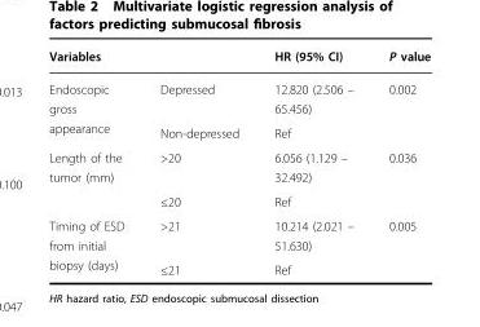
<table><thead><tr><td>Variables</td><td></td><td>HR (95% CI)</td><td>P value</td></tr></thead><tbody><tr><td rowspan="2">Endoscopic gross appearance</td><td>Depressed</td><td>12.820 (2.506 – 65.456)</td><td>0.002</td></tr><tr><td>Non-depressed</td><td>Ref</td><td></td></tr><tr><td rowspan="2">Length of the tumor (mm)</td><td>&gt;20</td><td>6.056 (1.129 – 32.492)</td><td>0.036</td></tr><tr><td>≤20</td><td>Ref</td><td></td></tr><tr><td rowspan="2">Timing of ESD from initial biopsy (days)</td><td>&gt;21</td><td>10.214 (2.021 – 51.630)</td><td>0.005</td></tr><tr><td>≤21</td><td>Ref</td><td></td></tr></tbody></table>